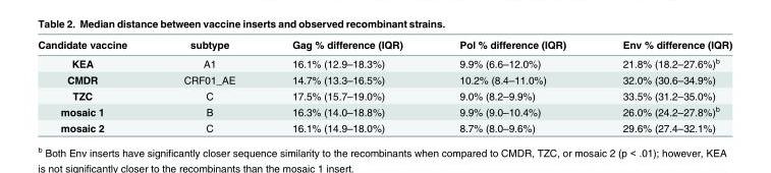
<table><thead><tr><td>Candidate vaccine</td><td>subtype</td><td>Gag % difference (IQR)</td><td>Pol % difference (IQR)</td><td>Env % difference (IQR)</td></tr></thead><tbody><tr><td>KEA</td><td>A1</td><td>16.1% (12.9–18.3%)</td><td>9.9% (6.6–12.0%)</td><td>21.8% (18.2–27.6%)<sup>b</sup></td></tr><tr><td>CMDR</td><td>CRF01_AE</td><td>14.7% (13.3–16.5%)</td><td>10.2% (8.4–11.0%)</td><td>32.0% (30.6–34.9%)</td></tr><tr><td>TZC</td><td>C</td><td>17.5% (15.7–19.0%)</td><td>9.0% (8.2–9.9%)</td><td>33.5% (31.2–35.0%)</td></tr><tr><td>mosaic 1</td><td>B</td><td>16.3% (14.0–18.8%)</td><td>9.9% (9.0–10.4%)</td><td>26.0% (24.2–27.8%)<sup>b</sup></td></tr><tr><td>mosaic 2</td><td>C</td><td>16.1% (14.9–18.0%)</td><td>8.7% (8.0–9.6%)</td><td>29.6% (27.4–32.1%)</td></tr></tbody></table>